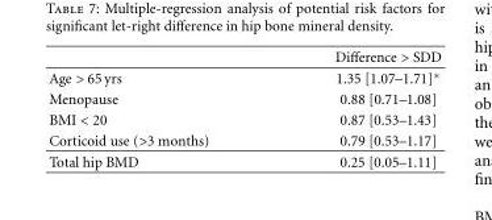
<table><thead><tr><td></td><td>Difference &gt; SDD</td></tr></thead><tbody><tr><td>Age &gt; 65 yrs</td><td>1.35 [1.07–1.71]∗</td></tr><tr><td>Menopause</td><td>0.88 [0.71–1.08]</td></tr><tr><td>BMI &lt; 20</td><td>0.87 [0.53–1.43]</td></tr><tr><td>Corticoid use (&gt;3 months)</td><td>0.79 [0.53–1.17]</td></tr><tr><td>Total hip BMD</td><td>0.25 [0.05–1.11]</td></tr></tbody></table>